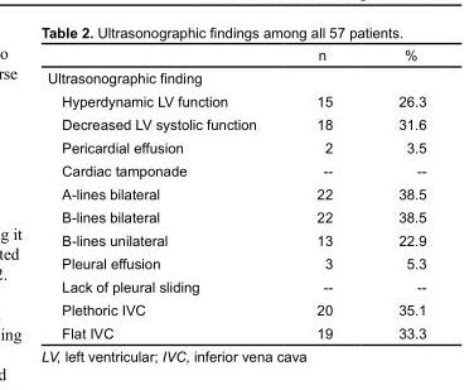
<table><thead><tr><td></td><td>n</td><td>%</td></tr></thead><tbody><tr><td colspan="3">Ultrasonographic finding</td></tr><tr><td>Hyperdynamic LV function</td><td>15</td><td>26.3</td></tr><tr><td>Decreased LV systolic function</td><td>18</td><td>31.6</td></tr><tr><td>Pericardial effusion</td><td>2</td><td>3.5</td></tr><tr><td>Cardiac tamponade</td><td>--</td><td>--</td></tr><tr><td>A-lines bilateral</td><td>22</td><td>38.5</td></tr><tr><td>B-lines bilateral</td><td>22</td><td>38.5</td></tr><tr><td>B-lines unilateral</td><td>13</td><td>22.9</td></tr><tr><td>Pleural effusion</td><td>3</td><td>5.3</td></tr><tr><td>Lack of pleural sliding</td><td>--</td><td>--</td></tr><tr><td>Plethoric IVC</td><td>20</td><td>35.1</td></tr><tr><td>Flat IVC</td><td>19</td><td>33.3</td></tr></tbody></table>